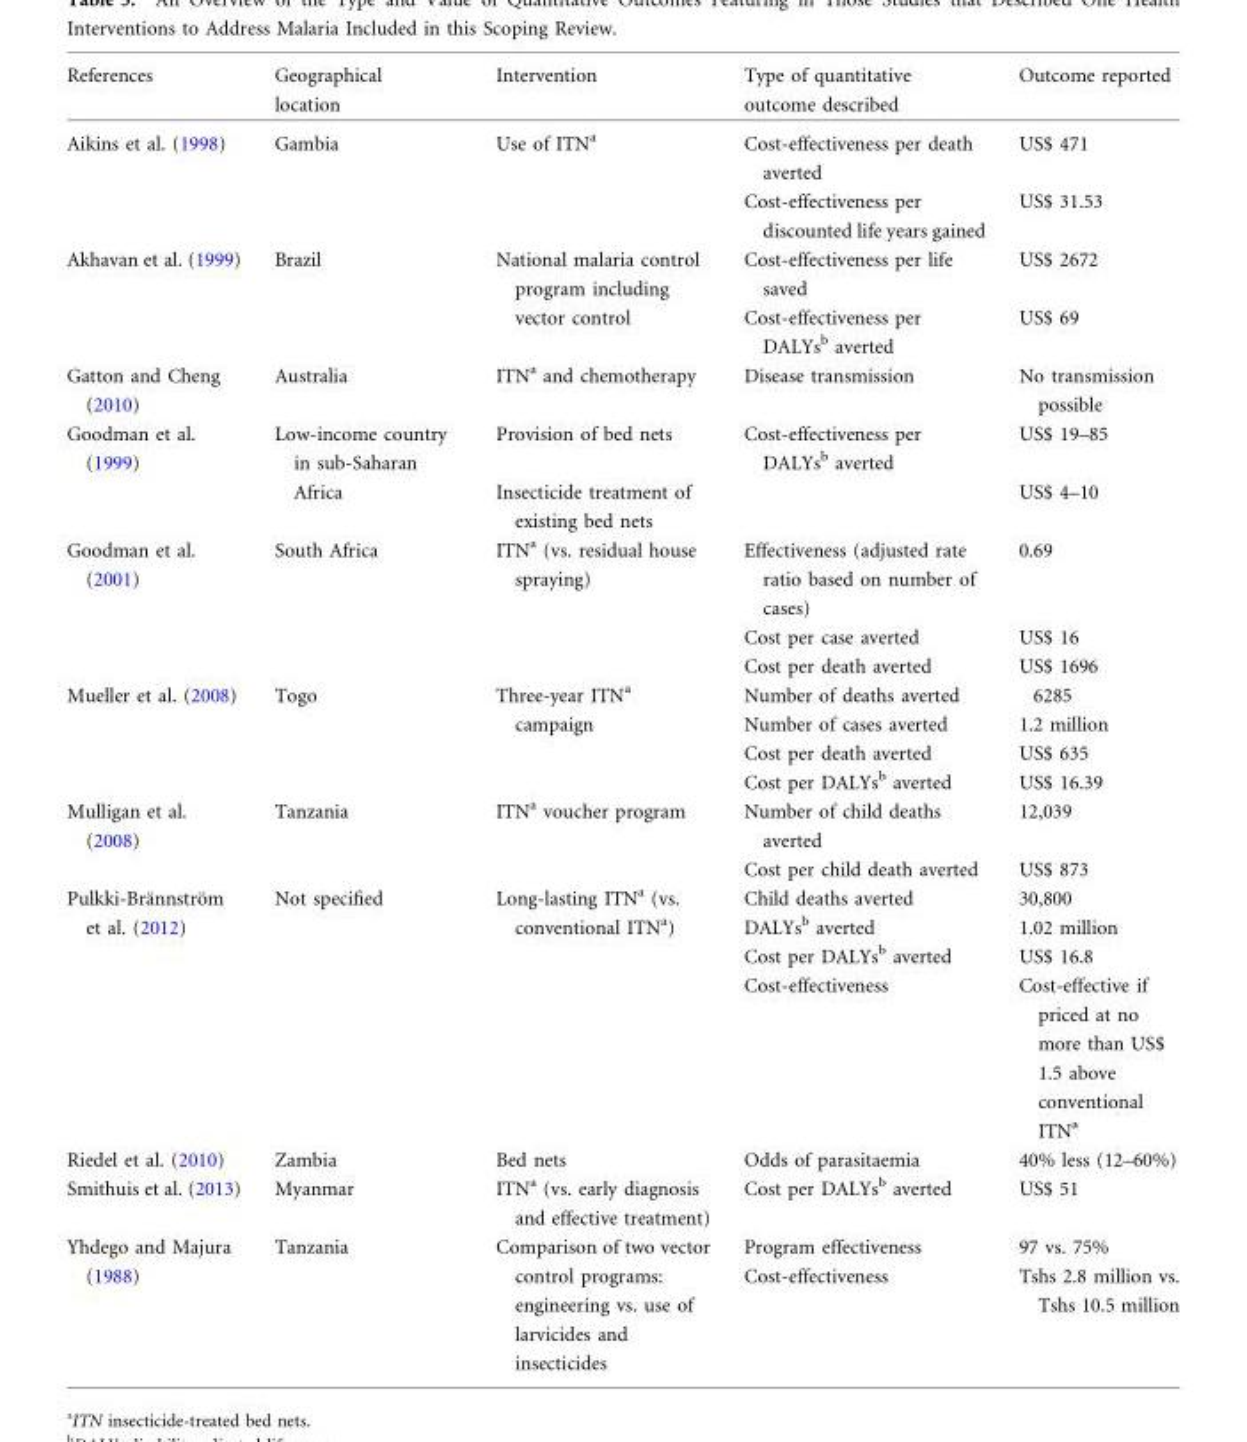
<table><thead><tr><td>References</td><td>Geographical location</td><td>Intervention</td><td>Type of quantitative outcome described</td><td>Outcome reported</td></tr></thead><tbody><tr><td rowspan="2">Aikins et al. (1998)</td><td rowspan="2">Gambia</td><td rowspan="2">Use of ITN<sup>a</sup></td><td>Cost-effectiveness per death averted</td><td>US$ 471</td></tr><tr><td>Cost-effectiveness per discounted life years gained</td><td>US$ 31.53</td></tr><tr><td rowspan="2">Akhavan et al. (1999)</td><td rowspan="2">Brazil</td><td rowspan="2">National malaria control program including vector control</td><td>Cost-effectiveness per life saved</td><td>US$ 2672</td></tr><tr><td>Cost-effectiveness per DALYs<sup>b</sup> averted</td><td>US$ 69</td></tr><tr><td>Gatton and Cheng (2010)</td><td>Australia</td><td>ITN<sup>a</sup> and chemotherapy</td><td>Disease transmission</td><td>No transmission possible</td></tr><tr><td rowspan="2">Goodman et al. (1999)</td><td rowspan="2">Low-income country in sub-Saharan Africa</td><td>Provision of bed nets</td><td>Cost-effectiveness per DALYs<sup>b</sup> averted</td><td>US$ 19–85</td></tr><tr><td>Insecticide treatment of existing bed nets</td><td></td><td>US$ 4–10</td></tr><tr><td rowspan="3">Goodman et al. (2001)</td><td rowspan="3">South Africa</td><td rowspan="3">ITN<sup>a</sup> (vs. residual house spraying)</td><td>Effectiveness (adjusted rate ratio based on number of cases)</td><td>0.69</td></tr><tr><td>Cost per case averted</td><td>US$ 16</td></tr><tr><td>Cost per death averted</td><td>US$ 1696</td></tr><tr><td rowspan="4">Mueller et al. (2008)</td><td rowspan="4">Togo</td><td rowspan="4">Three-year ITN<sup>a</sup> campaign</td><td>Number of deaths averted</td><td>6285</td></tr><tr><td>Number of cases averted</td><td>1.2 million</td></tr><tr><td>Cost per death averted</td><td>US$ 635</td></tr><tr><td>Cost per DALYs<sup>b</sup> averted</td><td>US$ 16.39</td></tr><tr><td rowspan="2">Mulligan et al. (2008)</td><td rowspan="2">Tanzania</td><td rowspan="2">ITN<sup>a</sup> voucher program</td><td>Number of child deaths averted</td><td>12,039</td></tr><tr><td>Cost per child death averted</td><td>US$ 873</td></tr><tr><td rowspan="4">Pulkki-Bra¨nnstro¨m et al. (2012)</td><td rowspan="4">Not specified</td><td rowspan="4">Long-lasting ITN<sup>a</sup> (vs. conventional ITN<sup>a</sup>)</td><td>Child deaths averted</td><td>30,800</td></tr><tr><td>DALYs<sup>b</sup> averted</td><td>1.02 million</td></tr><tr><td>Cost per DALYs<sup>b</sup> averted</td><td>US$ 16.8</td></tr><tr><td>Cost-effectiveness</td><td>Cost-effective if priced at no more than US$ 1.5 above conventional ITN<sup>a</sup></td></tr><tr><td>Riedel et al. (2010)</td><td>Zambia</td><td>Bed nets</td><td>Odds of parasitaemia</td><td>40% less (12–60%)</td></tr><tr><td>Smithuis et al. (2013)</td><td>Myanmar</td><td>ITN<sup>a</sup> (vs. early diagnosis and effective treatment)</td><td>Cost per DALYs<sup>b</sup> averted</td><td>US$ 51</td></tr><tr><td rowspan="2">Yhdego and Majura (1988)</td><td rowspan="2">Tanzania</td><td rowspan="2">Comparison of two vector control programs: engineering vs. use of larvicides and insecticides</td><td>Program effectiveness</td><td>97 vs. 75%</td></tr><tr><td>Cost-effectiveness</td><td>Tshs 2.8 million vs. Tshs 10.5 million</td></tr></tbody></table>